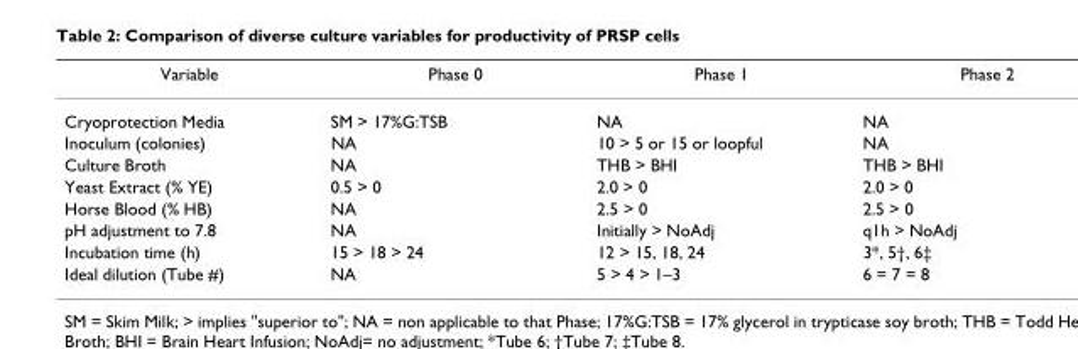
<table><thead><tr><td>Variable</td><td>Phase 0</td><td>Phase 1</td><td>Phase 2</td></tr></thead><tbody><tr><td>Cryoprotection Media</td><td>SM &gt; 17%G:TSB</td><td>NA</td><td>NA</td></tr><tr><td>Inoculum (colonies)</td><td>NA</td><td>10 &gt; 5 or 15 or loopful</td><td>NA</td></tr><tr><td>Culture Broth</td><td>NA</td><td>THB &gt; BHI</td><td>THB &gt; BHI</td></tr><tr><td>Yeast Extract (% YE)</td><td>0.5 &gt; 0</td><td>2.0 &gt; 0</td><td>2.0 &gt; 0</td></tr><tr><td>Horse Blood (% HB)</td><td>NA</td><td>2.5 &gt; 0</td><td>2.5 &gt; 0</td></tr><tr><td>pH adjustment to 7.8</td><td>NA</td><td>Initially &gt; NoAdj</td><td>q1h &gt; NoAdj</td></tr><tr><td>Incubation time (h)</td><td>15 &gt; 18 &gt; 24</td><td>12 &gt; 15, 18, 24</td><td>3*, 5†, 6‡</td></tr><tr><td>Ideal dilution (Tube #)</td><td>NA</td><td>5 &gt; 4 &gt; 1–3</td><td>6 = 7 = 8</td></tr></tbody></table>